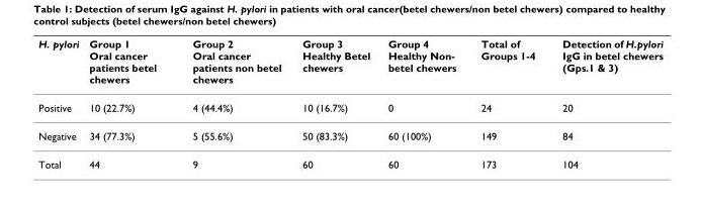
<table><thead><tr><td>H. pylori</td><td>Group 1 Oral cancer patients betel chewers</td><td>Group 2 Oral cancer patients non betel chewers</td><td>Group 3 Healthy Betel chewers</td><td>Group 4 Healthy Non- betel chewers</td><td>Total of Groups 1-4</td><td>Detection of H.pylori IgG in betel chewers (Gps.1 &amp; 3)</td></tr></thead><tbody><tr><td>Positive</td><td>10 (22.7%)</td><td>4 (44.4%)</td><td>10 (16.7%)</td><td>0</td><td>24</td><td>20</td></tr><tr><td>Negative</td><td>34 (77.3%)</td><td>5 (55.6%)</td><td>50 (83.3%)</td><td>60 (100%)</td><td>149</td><td>84</td></tr><tr><td>Total</td><td>44</td><td>9</td><td>60</td><td>60</td><td>173</td><td>104</td></tr></tbody></table>